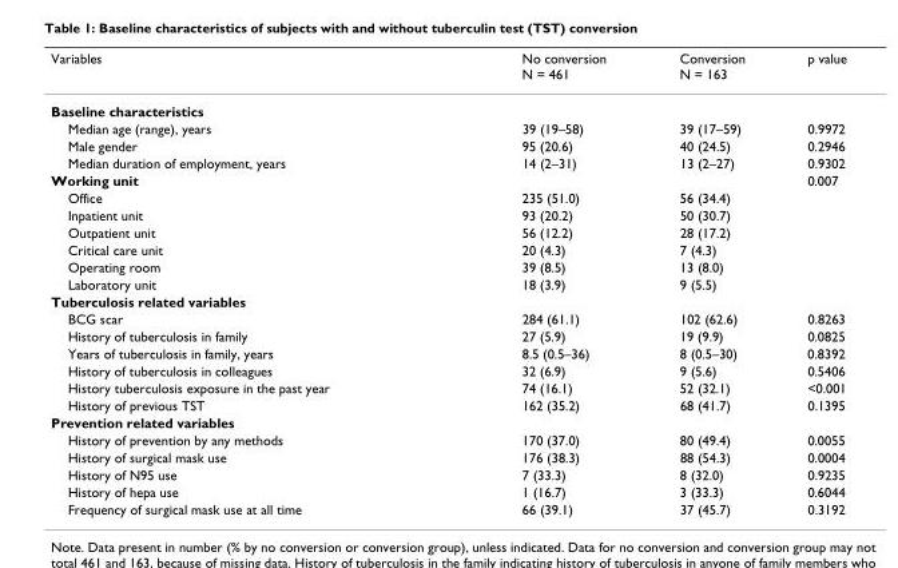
<table><thead><tr><td>Variables</td><td>No conversion N = 461</td><td>Conversion N = 163</td><td>p value</td></tr></thead><tbody><tr><td colspan="4">Baseline characteristics</td></tr><tr><td>Median age (range), years</td><td>39 (19–58)</td><td>39 (17–59)</td><td>0.9972</td></tr><tr><td>Male gender</td><td>95 (20.6)</td><td>40 (24.5)</td><td>0.2946</td></tr><tr><td>Median duration of employment, years</td><td>14 (2–31)</td><td>13 (2–27)</td><td>0.9302</td></tr><tr><td>Working unit</td><td></td><td></td><td>0.007</td></tr><tr><td>Office</td><td>235 (51.0)</td><td>56 (34.4)</td><td></td></tr><tr><td>Inpatient unit</td><td>93 (20.2)</td><td>50 (30.7)</td><td></td></tr><tr><td>Outpatient unit</td><td>56 (12.2)</td><td>28 (17.2)</td><td></td></tr><tr><td>Critical care unit</td><td>20 (4.3)</td><td>7 (4.3)</td><td></td></tr><tr><td>Operating room</td><td>39 (8.5)</td><td>13 (8.0)</td><td></td></tr><tr><td>Laboratory unit</td><td>18 (3.9)</td><td>9 (5.5)</td><td></td></tr><tr><td colspan="4">Tuberculosis related variables</td></tr><tr><td>BCG scar</td><td>284 (61.1)</td><td>102 (62.6)</td><td>0.8263</td></tr><tr><td>History of tuberculosis in family</td><td>27 (5.9)</td><td>19 (9.9)</td><td>0.0825</td></tr><tr><td>Years of tuberculosis in family, years</td><td>8.5 (0.5–36)</td><td>8 (0.5–30)</td><td>0.8392</td></tr><tr><td>History of tuberculosis in colleagues</td><td>32 (6.9)</td><td>9 (5.6)</td><td>0.5406</td></tr><tr><td>History tuberculosis exposure in the past year</td><td>74 (16.1)</td><td>52 (32.1)</td><td>&lt;0.001</td></tr><tr><td>History of previous TST</td><td>162 (35.2)</td><td>68 (41.7)</td><td>0.1395</td></tr><tr><td colspan="4">Prevention related variables</td></tr><tr><td>History of prevention by any methods</td><td>170 (37.0)</td><td>80 (49.4)</td><td>0.0055</td></tr><tr><td>History of surgical mask use</td><td>176 (38.3)</td><td>88 (54.3)</td><td>0.0004</td></tr><tr><td>History of N95 use</td><td>7 (33.3)</td><td>8 (32.0)</td><td>0.9235</td></tr><tr><td>History of hepa use</td><td>1 (16.7)</td><td>3 (33.3)</td><td>0.6044</td></tr><tr><td>Frequency of surgical mask use at all time</td><td>66 (39.1)</td><td>37 (45.7)</td><td>0.3192</td></tr></tbody></table>